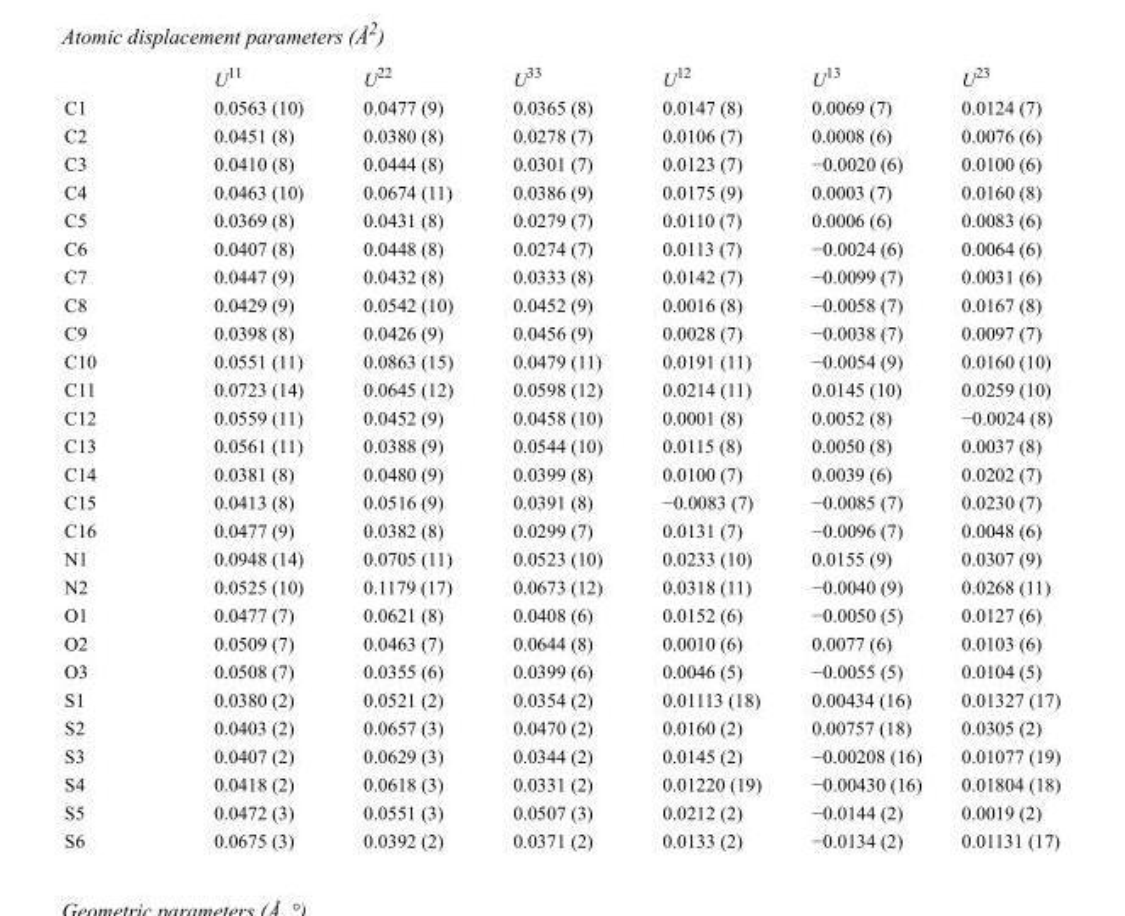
<table><thead><tr><td></td><td>U<sup>11</sup></td><td>U<sup>22</sup></td><td>U<sup>33</sup></td><td>U<sup>12</sup></td><td>U<sup>13</sup></td><td>U<sup>23</sup></td></tr></thead><tbody><tr><td>C1</td><td>0.0563 (10)</td><td>0.0477 (9)</td><td>0.0365 (8)</td><td>0.0147 (8)</td><td>0.0069 (7)</td><td>0.0124 (7)</td></tr><tr><td>C2</td><td>0.0451 (8)</td><td>0.0380 (8)</td><td>0.0278 (7)</td><td>0.0106 (7)</td><td>0.0008 (6)</td><td>0.0076 (6)</td></tr><tr><td>C3</td><td>0.0410 (8)</td><td>0.0444 (8)</td><td>0.0301 (7)</td><td>0.0123 (7)</td><td>−0.0020 (6)</td><td>0.0100 (6)</td></tr><tr><td>C4</td><td>0.0463 (10)</td><td>0.0674 (11)</td><td>0.0386 (9)</td><td>0.0175 (9)</td><td>0.0003 (7)</td><td>0.0160 (8)</td></tr><tr><td>C5</td><td>0.0369 (8)</td><td>0.0431 (8)</td><td>0.0279 (7)</td><td>0.0110 (7)</td><td>0.0006 (6)</td><td>0.0083 (6)</td></tr><tr><td>C6</td><td>0.0407 (8)</td><td>0.0448 (8)</td><td>0.0274 (7)</td><td>0.0113 (7)</td><td>−0.0024 (6)</td><td>0.0064 (6)</td></tr><tr><td>C7</td><td>0.0447 (9)</td><td>0.0432 (8)</td><td>0.0333 (8)</td><td>0.0142 (7)</td><td>−0.0099 (7)</td><td>0.0031 (6)</td></tr><tr><td>C8</td><td>0.0429 (9)</td><td>0.0542 (10)</td><td>0.0452 (9)</td><td>0.0016 (8)</td><td>−0.0058 (7)</td><td>0.0167 (8)</td></tr><tr><td>C9</td><td>0.0398 (8)</td><td>0.0426 (9)</td><td>0.0456 (9)</td><td>0.0028 (7)</td><td>−0.0038 (7)</td><td>0.0097 (7)</td></tr><tr><td>C10</td><td>0.0551 (11)</td><td>0.0863 (15)</td><td>0.0479 (11)</td><td>0.0191 (11)</td><td>−0.0054 (9)</td><td>0.0160 (10)</td></tr><tr><td>C11</td><td>0.0723 (14)</td><td>0.0645 (12)</td><td>0.0598 (12)</td><td>0.0214 (11)</td><td>0.0145 (10)</td><td>0.0259 (10)</td></tr><tr><td>C12</td><td>0.0559 (11)</td><td>0.0452 (9)</td><td>0.0458 (10)</td><td>0.0001 (8)</td><td>0.0052 (8)</td><td>−0.0024 (8)</td></tr><tr><td>C13</td><td>0.0561 (11)</td><td>0.0388 (9)</td><td>0.0544 (10)</td><td>0.0115 (8)</td><td>0.0050 (8)</td><td>0.0037 (8)</td></tr><tr><td>C14</td><td>0.0381 (8)</td><td>0.0480 (9)</td><td>0.0399 (8)</td><td>0.0100 (7)</td><td>0.0039 (6)</td><td>0.0202 (7)</td></tr><tr><td>C15</td><td>0.0413 (8)</td><td>0.0516 (9)</td><td>0.0391 (8)</td><td>−0.0083 (7)</td><td>−0.0085 (7)</td><td>0.0230 (7)</td></tr><tr><td>C16</td><td>0.0477 (9)</td><td>0.0382 (8)</td><td>0.0299 (7)</td><td>0.0131 (7)</td><td>−0.0096 (7)</td><td>0.0048 (6)</td></tr><tr><td>N1</td><td>0.0948 (14)</td><td>0.0705 (11)</td><td>0.0523 (10)</td><td>0.0233 (10)</td><td>0.0155 (9)</td><td>0.0307 (9)</td></tr><tr><td>N2</td><td>0.0525 (10)</td><td>0.1179 (17)</td><td>0.0673 (12)</td><td>0.0318 (11)</td><td>−0.0040 (9)</td><td>0.0268 (11)</td></tr><tr><td>O1</td><td>0.0477 (7)</td><td>0.0621 (8)</td><td>0.0408 (6)</td><td>0.0152 (6)</td><td>−0.0050 (5)</td><td>0.0127 (6)</td></tr><tr><td>O2</td><td>0.0509 (7)</td><td>0.0463 (7)</td><td>0.0644 (8)</td><td>0.0010 (6)</td><td>0.0077 (6)</td><td>0.0103 (6)</td></tr><tr><td>O3</td><td>0.0508 (7)</td><td>0.0355 (6)</td><td>0.0399 (6)</td><td>0.0046 (5)</td><td>−0.0055 (5)</td><td>0.0104 (5)</td></tr><tr><td>S1</td><td>0.0380 (2)</td><td>0.0521 (2)</td><td>0.0354 (2)</td><td>0.01113 (18)</td><td>0.00434 (16)</td><td>0.01327 (17)</td></tr><tr><td>S2</td><td>0.0403 (2)</td><td>0.0657 (3)</td><td>0.0470 (2)</td><td>0.0160 (2)</td><td>0.00757 (18)</td><td>0.0305 (2)</td></tr><tr><td>S3</td><td>0.0407 (2)</td><td>0.0629 (3)</td><td>0.0344 (2)</td><td>0.0145 (2)</td><td>−0.00208 (16)</td><td>0.01077 (19)</td></tr><tr><td>S4</td><td>0.0418 (2)</td><td>0.0618 (3)</td><td>0.0331 (2)</td><td>0.01220 (19)</td><td>−0.00430 (16)</td><td>0.01804 (18)</td></tr><tr><td>S5</td><td>0.0472 (3)</td><td>0.0551 (3)</td><td>0.0507 (3)</td><td>0.0212 (2)</td><td>−0.0144 (2)</td><td>0.0019 (2)</td></tr><tr><td>S6</td><td>0.0675 (3)</td><td>0.0392 (2)</td><td>0.0371 (2)</td><td>0.0133 (2)</td><td>−0.0134 (2)</td><td>0.01131 (17)</td></tr></tbody></table>